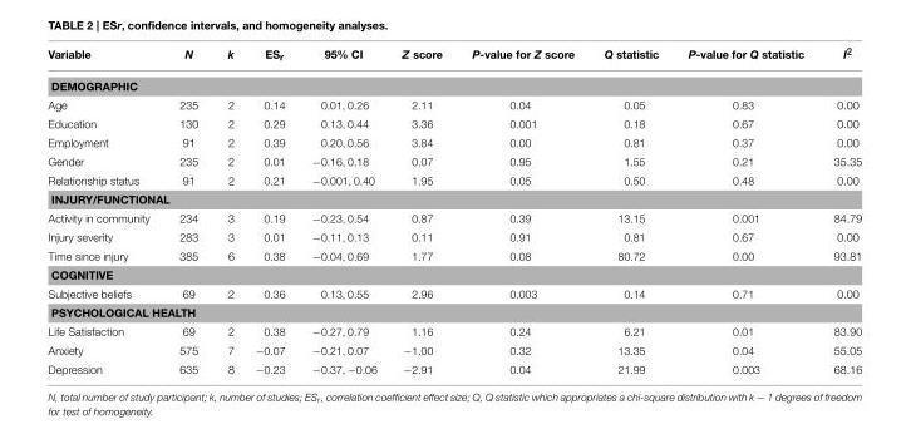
<table><thead><tr><td>Variable</td><td>N</td><td>k</td><td>ES<sub>r</sub></td><td>95% CI</td><td>Z score</td><td>P-value for Z score</td><td>Q statistic</td><td>P-value for Q statistic</td><td>I<sup>2</sup></td></tr></thead><tbody><tr><td colspan="10">DEMOGRAPHIC</td></tr><tr><td>Age</td><td>235</td><td>2</td><td>0.14</td><td>0.01, 0.26</td><td>2.11</td><td>0.04</td><td>0.05</td><td>0.83</td><td>0.00</td></tr><tr><td>Education</td><td>130</td><td>2</td><td>0.29</td><td>0.13, 0.44</td><td>3.36</td><td>0.001</td><td>0.18</td><td>0.67</td><td>0.00</td></tr><tr><td>Employment</td><td>91</td><td>2</td><td>0.39</td><td>0.20, 0.56</td><td>3.84</td><td>0.00</td><td>0.81</td><td>0.37</td><td>0.00</td></tr><tr><td>Gender</td><td>235</td><td>2</td><td>0.01</td><td>−0.16, 0.18</td><td>0.07</td><td>0.95</td><td>1.55</td><td>0.21</td><td>35.35</td></tr><tr><td>Relationship status</td><td>91</td><td>2</td><td>0.21</td><td>−0.001, 0.40</td><td>1.95</td><td>0.05</td><td>0.50</td><td>0.48</td><td>0.00</td></tr><tr><td colspan="10">INJURY/FUNCTIONAL</td></tr><tr><td>Activity in community</td><td>234</td><td>3</td><td>0.19</td><td>−0.23, 0.54</td><td>0.87</td><td>0.39</td><td>13.15</td><td>0.001</td><td>84.79</td></tr><tr><td>Injury severity</td><td>283</td><td>3</td><td>0.01</td><td>−0.11, 0.13</td><td>0.11</td><td>0.91</td><td>0.81</td><td>0.67</td><td>0.00</td></tr><tr><td>Time since injury</td><td>385</td><td>6</td><td>0.38</td><td>−0.04, 0.69</td><td>1.77</td><td>0.08</td><td>80.72</td><td>0.00</td><td>93.81</td></tr><tr><td colspan="10">COGNITIVE</td></tr><tr><td>Subjective beliefs</td><td>69</td><td>2</td><td>0.36</td><td>0.13, 0.55</td><td>2.96</td><td>0.003</td><td>0.14</td><td>0.71</td><td>0.00</td></tr><tr><td colspan="10">PSYCHOLOGICAL HEALTH</td></tr><tr><td>Life Satisfaction</td><td>69</td><td>2</td><td>0.38</td><td>−0.27, 0.79</td><td>1.16</td><td>0.24</td><td>6.21</td><td>0.01</td><td>83.90</td></tr><tr><td>Anxiety</td><td>575</td><td>7</td><td>−0.07</td><td>−0.21, 0.07</td><td>−1.00</td><td>0.32</td><td>13.35</td><td>0.04</td><td>55.05</td></tr><tr><td>Depression</td><td>635</td><td>8</td><td>−0.23</td><td>−0.37, −0.06</td><td>−2.91</td><td>0.04</td><td>21.99</td><td>0.003</td><td>68.16</td></tr></tbody></table>